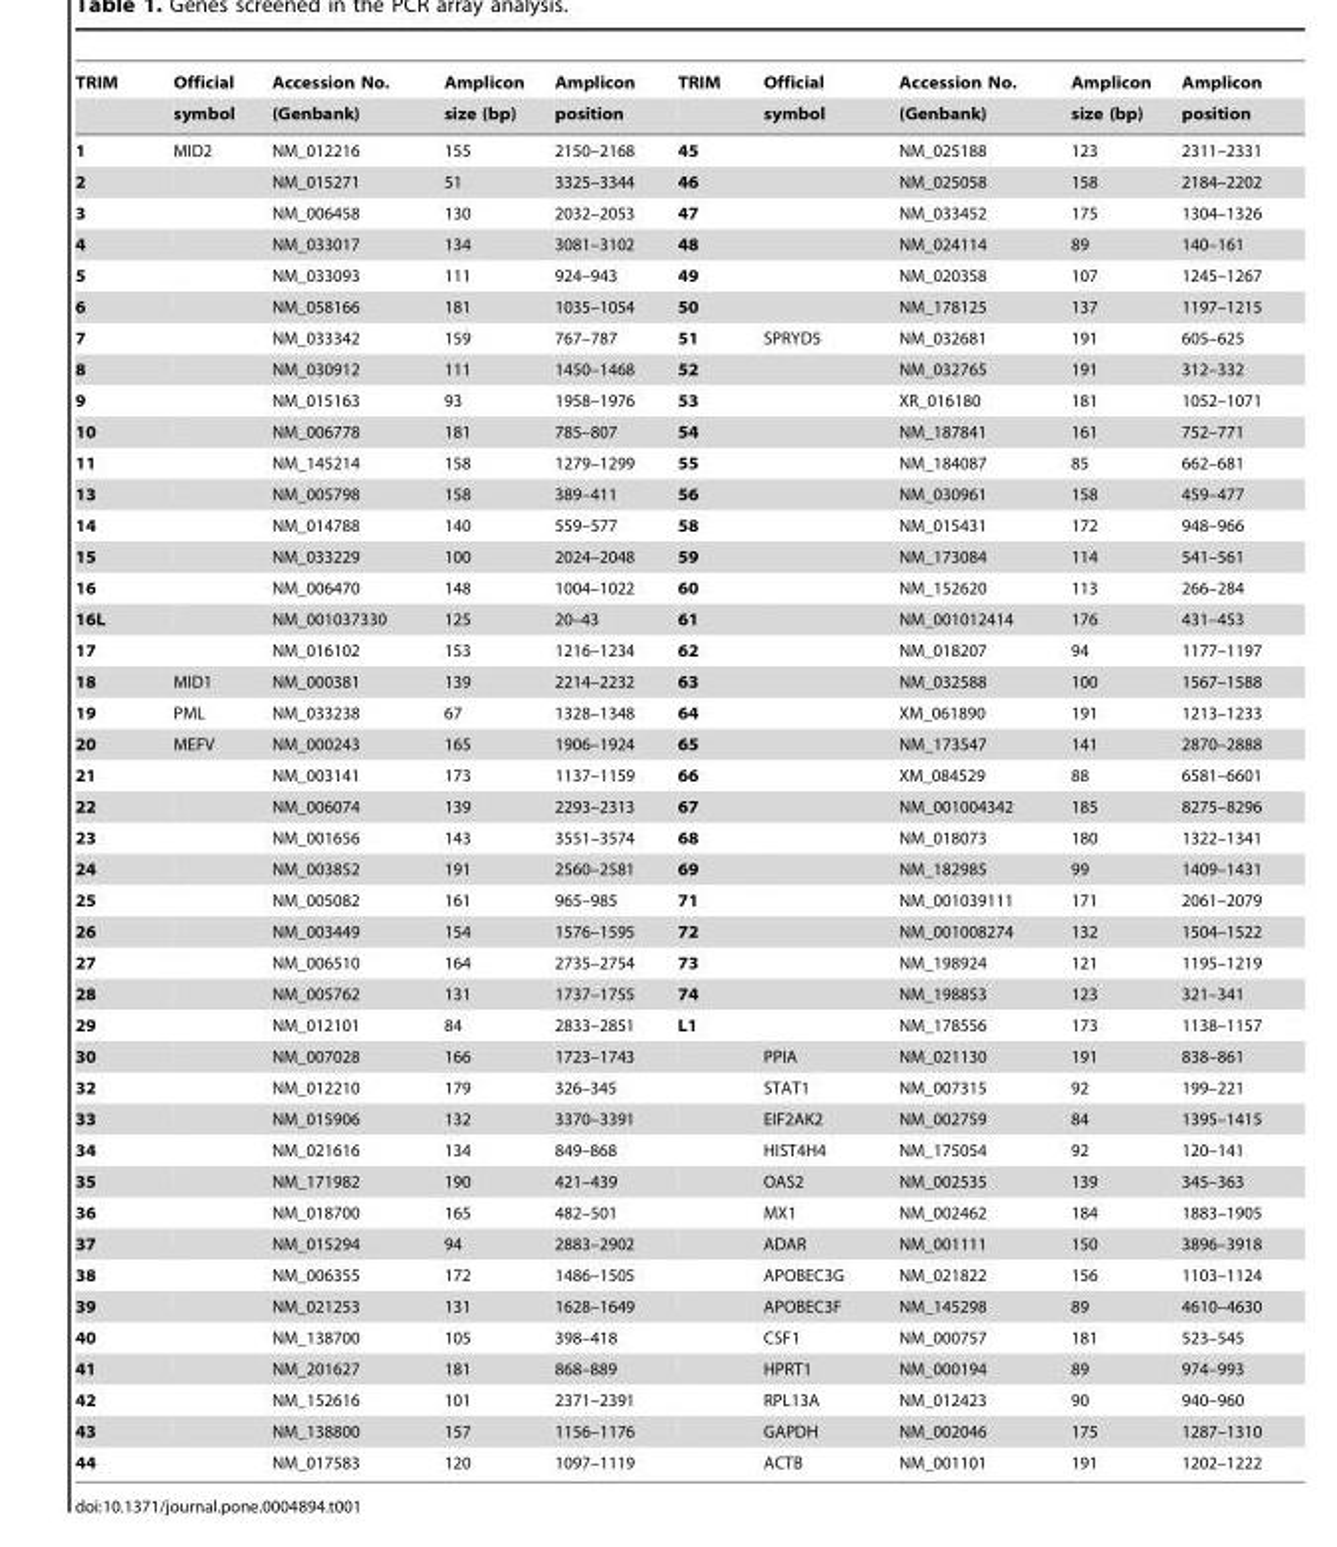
<table><thead><tr><td rowspan="2">TRIM</td><td rowspan="2">Official symbol</td><td rowspan="2">Accession No. (Genbank)</td><td rowspan="2">Amplicon size (bp)</td><td rowspan="2">Amplicon position</td><td rowspan="2">TRIM</td><td rowspan="2">Official symbol</td><td rowspan="2">Accession No. (Genbank)</td><td rowspan="2">Amplicon size (bp)</td><td rowspan="2">Amplicon position</td></tr><tr></tr></thead><tbody><tr><td>1</td><td>MID2</td><td>NM_012216</td><td>155</td><td>2150–2168</td><td>45</td><td></td><td>NM_025188</td><td>123</td><td>2311–2331</td></tr><tr><td>2</td><td></td><td>NM_015271</td><td>51</td><td>3325–3344</td><td>46</td><td></td><td>NM_025058</td><td>158</td><td>2184–2202</td></tr><tr><td>3</td><td></td><td>NM_006458</td><td>130</td><td>2032–2053</td><td>47</td><td></td><td>NM_033452</td><td>175</td><td>1304–1326</td></tr><tr><td>4</td><td></td><td>NM_033017</td><td>134</td><td>3081–3102</td><td>48</td><td></td><td>NM_024114</td><td>89</td><td>140–161</td></tr><tr><td>5</td><td></td><td>NM_033093</td><td>111</td><td>924–943</td><td>49</td><td></td><td>NM_020358</td><td>107</td><td>1245–1267</td></tr><tr><td>6</td><td></td><td>NM_058166</td><td>181</td><td>1035–1054</td><td>50</td><td></td><td>NM_178125</td><td>137</td><td>1197–1215</td></tr><tr><td>7</td><td></td><td>NM_033342</td><td>159</td><td>767–787</td><td>51</td><td>SPRYD5</td><td>NM_032681</td><td>191</td><td>605–625</td></tr><tr><td>8</td><td></td><td>NM_030912</td><td>111</td><td>1450–1468</td><td>52</td><td></td><td>NM_032765</td><td>191</td><td>312–332</td></tr><tr><td>9</td><td></td><td>NM_015163</td><td>93</td><td>1958–1976</td><td>53</td><td></td><td>XR_016180</td><td>181</td><td>1052–1071</td></tr><tr><td>10</td><td></td><td>NM_006778</td><td>181</td><td>785–807</td><td>54</td><td></td><td>NM_187841</td><td>161</td><td>752–771</td></tr><tr><td>11</td><td></td><td>NM_145214</td><td>158</td><td>1279–1299</td><td>55</td><td></td><td>NM_184087</td><td>85</td><td>662–681</td></tr><tr><td>13</td><td></td><td>NM_005798</td><td>158</td><td>389–411</td><td>56</td><td></td><td>NM_030961</td><td>158</td><td>459–477</td></tr><tr><td>14</td><td></td><td>NM_014788</td><td>140</td><td>559–577</td><td>58</td><td></td><td>NM_015431</td><td>172</td><td>948–966</td></tr><tr><td>15</td><td></td><td>NM_033229</td><td>100</td><td>2024–2048</td><td>59</td><td></td><td>NM_173084</td><td>114</td><td>541–561</td></tr><tr><td>16</td><td></td><td>NM_006470</td><td>148</td><td>1004–1022</td><td>60</td><td></td><td>NM_152620</td><td>113</td><td>266–284</td></tr><tr><td>16L</td><td></td><td>NM_001037330</td><td>125</td><td>20–43</td><td>61</td><td></td><td>NM_001012414</td><td>176</td><td>431–453</td></tr><tr><td>17</td><td></td><td>NM_016102</td><td>153</td><td>1216–1234</td><td>62</td><td></td><td>NM_018207</td><td>94</td><td>1177–1197</td></tr><tr><td>18</td><td>MID1</td><td>NM_000381</td><td>139</td><td>2214–2232</td><td>63</td><td></td><td>NM_032588</td><td>100</td><td>1567–1588</td></tr><tr><td>19</td><td>PML</td><td>NM_033238</td><td>67</td><td>1328–1348</td><td>64</td><td></td><td>XM_061890</td><td>191</td><td>1213–1233</td></tr><tr><td>20</td><td>MEFV</td><td>NM_000243</td><td>165</td><td>1906–1924</td><td>65</td><td></td><td>NM_173547</td><td>141</td><td>2870–2888</td></tr><tr><td>21</td><td></td><td>NM_003141</td><td>173</td><td>1137–1159</td><td>66</td><td></td><td>XM_084529</td><td>88</td><td>6581–6601</td></tr><tr><td>22</td><td></td><td>NM_006074</td><td>139</td><td>2293–2313</td><td>67</td><td></td><td>NM_001004342</td><td>185</td><td>8275–8296</td></tr><tr><td>23</td><td></td><td>NM_001656</td><td>143</td><td>3551–3574</td><td>68</td><td></td><td>NM_018073</td><td>180</td><td>1322–1341</td></tr><tr><td>24</td><td></td><td>NM_003852</td><td>191</td><td>2560–2581</td><td>69</td><td></td><td>NM_182985</td><td>99</td><td>1409–1431</td></tr><tr><td>25</td><td></td><td>NM_005082</td><td>161</td><td>965–985</td><td>71</td><td></td><td>NM_001039111</td><td>171</td><td>2061–2079</td></tr><tr><td>26</td><td></td><td>NM_003449</td><td>154</td><td>1576–1595</td><td>72</td><td></td><td>NM_001008274</td><td>132</td><td>1504–1522</td></tr><tr><td>27</td><td></td><td>NM_006510</td><td>164</td><td>2735–2754</td><td>73</td><td></td><td>NM_198924</td><td>121</td><td>1195–1219</td></tr><tr><td>28</td><td></td><td>NM_005762</td><td>131</td><td>1737–1755</td><td>74</td><td></td><td>NM_198853</td><td>123</td><td>321–341</td></tr><tr><td>29</td><td></td><td>NM_012101</td><td>84</td><td>2833–2851</td><td>L1</td><td></td><td>NM_178556</td><td>173</td><td>1138–1157</td></tr><tr><td>30</td><td></td><td>NM_007028</td><td>166</td><td>1723–1743</td><td></td><td>PPIA</td><td>NM_021130</td><td>191</td><td>838–861</td></tr><tr><td>32</td><td></td><td>NM_012210</td><td>179</td><td>326–345</td><td></td><td>STAT1</td><td>NM_007315</td><td>92</td><td>199–221</td></tr><tr><td>33</td><td></td><td>NM_015906</td><td>132</td><td>3370–3391</td><td></td><td>EIF2AK2</td><td>NM_002759</td><td>84</td><td>1395–1415</td></tr><tr><td>34</td><td></td><td>NM_021616</td><td>134</td><td>849–868</td><td></td><td>HIST4H4</td><td>NM_175054</td><td>92</td><td>120–141</td></tr><tr><td>35</td><td></td><td>NM_171982</td><td>190</td><td>421–439</td><td></td><td>OAS2</td><td>NM_002535</td><td>139</td><td>345–363</td></tr><tr><td>36</td><td></td><td>NM_018700</td><td>165</td><td>482–501</td><td></td><td>MX1</td><td>NM_002462</td><td>184</td><td>1883–1905</td></tr><tr><td>37</td><td></td><td>NM_015294</td><td>94</td><td>2883–2902</td><td></td><td>ADAR</td><td>NM_001111</td><td>150</td><td>3896–3918</td></tr><tr><td>38</td><td></td><td>NM_006355</td><td>172</td><td>1486–1505</td><td></td><td>APOBEC3G</td><td>NM_021822</td><td>156</td><td>1103–1124</td></tr><tr><td>39</td><td></td><td>NM_021253</td><td>131</td><td>1628–1649</td><td></td><td>APOBEC3F</td><td>NM_145298</td><td>89</td><td>4610–4630</td></tr><tr><td>40</td><td></td><td>NM_138700</td><td>105</td><td>398–418</td><td></td><td>CSF1</td><td>NM_000757</td><td>181</td><td>523–545</td></tr><tr><td>41</td><td></td><td>NM_201627</td><td>181</td><td>868–889</td><td></td><td>HPRT1</td><td>NM_000194</td><td>89</td><td>974–993</td></tr><tr><td>42</td><td></td><td>NM_152616</td><td>101</td><td>2371–2391</td><td></td><td>RPL13A</td><td>NM_012423</td><td>90</td><td>940–960</td></tr><tr><td>43</td><td></td><td>NM_138800</td><td>157</td><td>1156–1176</td><td></td><td>GAPDH</td><td>NM_002046</td><td>175</td><td>1287–1310</td></tr><tr><td>44</td><td></td><td>NM_017583</td><td>120</td><td>1097–1119</td><td></td><td>ACTB</td><td>NM_001101</td><td>191</td><td>1202–1222</td></tr></tbody></table>